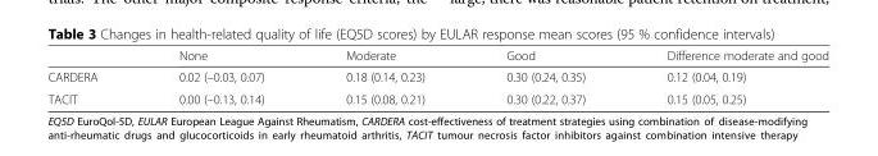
<table><thead><tr><td></td><td>None</td><td>Moderate</td><td>Good</td><td>Difference moderate and good</td></tr></thead><tbody><tr><td>CARDERA</td><td>0.02 (–0.03, 0.07)</td><td>0.18 (0.14, 0.23)</td><td>0.30 (0.24, 0.35)</td><td>0.12 (0.04, 0.19)</td></tr><tr><td>TACIT</td><td>0.00 (–0.13, 0.14)</td><td>0.15 (0.08, 0.21)</td><td>0.30 (0.22, 0.37)</td><td>0.15 (0.05, 0.25)</td></tr></tbody></table>